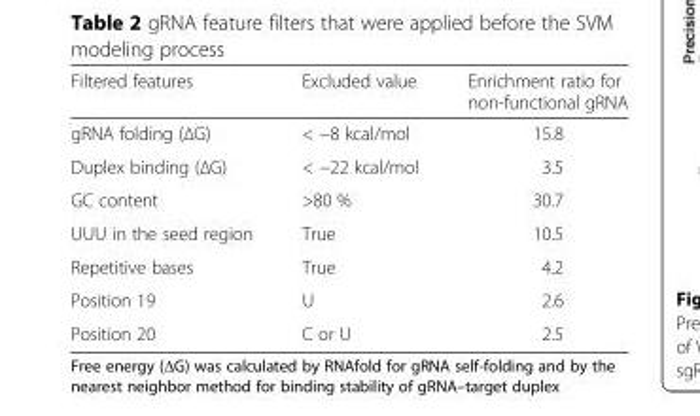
<table><thead><tr><td>Filtered features</td><td>Excluded value</td><td>Enrichment ratio for non-functional gRNA</td></tr></thead><tbody><tr><td>gRNA folding (ΔG)</td><td>&lt; −8 kcal/mol</td><td>15.8</td></tr><tr><td>Duplex binding (ΔG)</td><td>&lt; −22 kcal/mol</td><td>3.5</td></tr><tr><td>GC content</td><td>&gt;80 %</td><td>30.7</td></tr><tr><td>UUU in the seed region</td><td>True</td><td>10.5</td></tr><tr><td>Repetitive bases</td><td>True</td><td>4.2</td></tr><tr><td>Position 19</td><td>U</td><td>2.6</td></tr><tr><td>Position 20</td><td>C or U</td><td>2.5</td></tr></tbody></table>